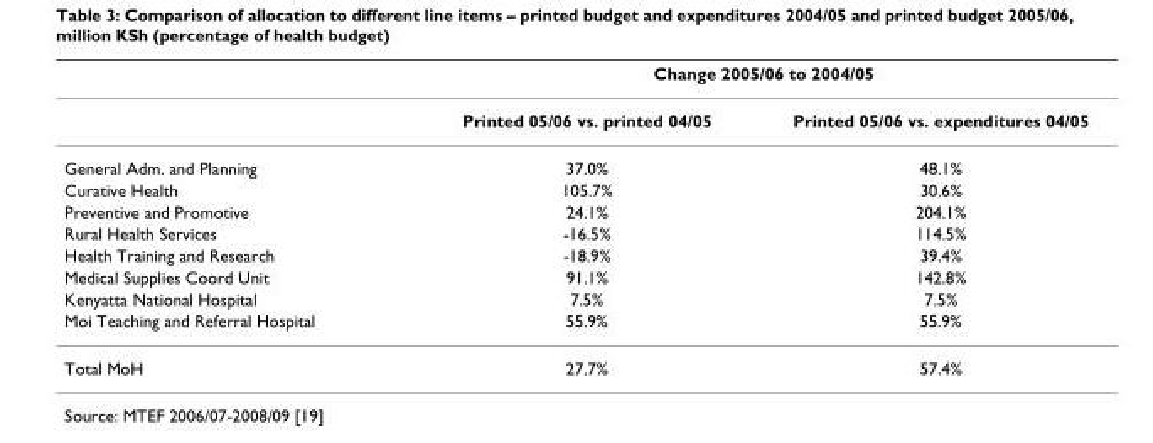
<table><thead><tr><td rowspan="2"></td><td colspan="2">Change 2005/06 to 2004/05</td></tr><tr><td>Printed 05/06 vs. printed 04/05</td><td>Printed 05/06 vs. expenditures 04/05</td></tr></thead><tbody><tr><td>General Adm. and Planning</td><td>37.0%</td><td>48.1%</td></tr><tr><td>Curative Health</td><td>105.7%</td><td>30.6%</td></tr><tr><td>Preventive and Promotive</td><td>24.1%</td><td>204.1%</td></tr><tr><td>Rural Health Services</td><td>-16.5%</td><td>114.5%</td></tr><tr><td>Health Training and Research</td><td>-18.9%</td><td>39.4%</td></tr><tr><td>Medical Supplies Coord Unit</td><td>91.1%</td><td>142.8%</td></tr><tr><td>Kenyatta National Hospital</td><td>7.5%</td><td>7.5%</td></tr><tr><td>Moi Teaching and Referral Hospital</td><td>55.9%</td><td>55.9%</td></tr><tr><td>Total MoH</td><td>27.7%</td><td>57.4%</td></tr></tbody></table>